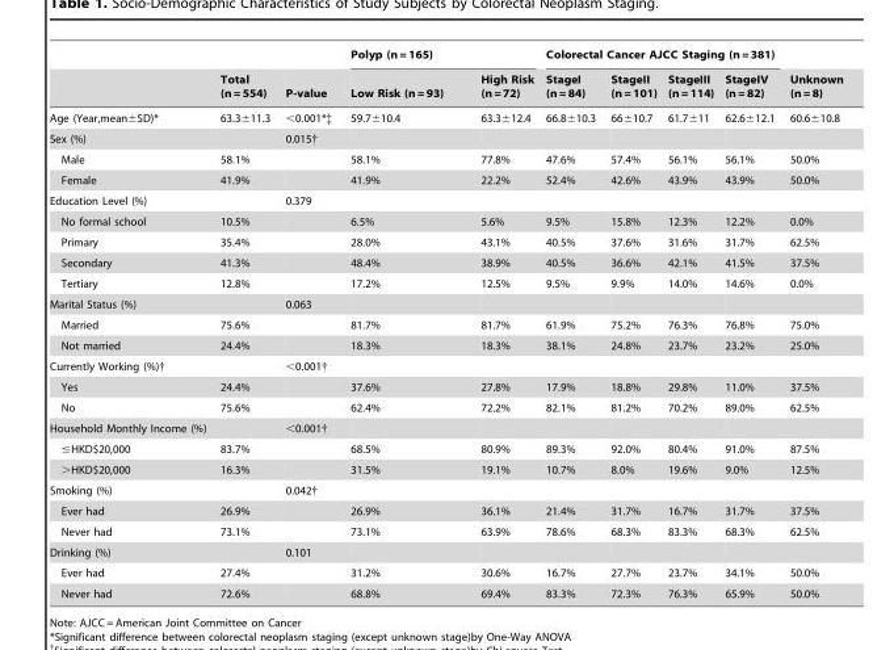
<table><thead><tr><td rowspan="2"></td><td rowspan="2">Total (n = 554)</td><td rowspan="2">P-value</td><td colspan="2">Polyp (n = 165)</td><td colspan="4">Colorectal Cancer AJCC Staging (n = 381)</td><td rowspan="2">Unknown (n = 8)</td></tr><tr><td>Low Risk (n = 93)</td><td>High Risk (n = 72)</td><td>StageI (n = 84)</td><td>StageII (n = 101)</td><td>StageIII (n = 114)</td><td>StageIV (n = 82)</td></tr></thead><tbody><tr><td>Age (Year,mean±SD)*</td><td>63.3±11.3</td><td>&lt;0.001*‡</td><td>59.7±10.4</td><td>63.3±12.4</td><td>66.8±10.3</td><td>66±10.7</td><td>61.7±11</td><td>62.6±12.1</td><td>60.6±10.8</td></tr><tr><td>Sex (%)</td><td></td><td>0.015†</td><td></td><td></td><td></td><td></td><td></td><td></td><td></td></tr><tr><td>Male</td><td>58.1%</td><td></td><td>58.1%</td><td>77.8%</td><td>47.6%</td><td>57.4%</td><td>56.1%</td><td>56.1%</td><td>50.0%</td></tr><tr><td>Female</td><td>41.9%</td><td></td><td>41.9%</td><td>22.2%</td><td>52.4%</td><td>42.6%</td><td>43.9%</td><td>43.9%</td><td>50.0%</td></tr><tr><td>Education Level (%)</td><td></td><td>0.379</td><td></td><td></td><td></td><td></td><td></td><td></td><td></td></tr><tr><td>No formal school</td><td>10.5%</td><td></td><td>6.5%</td><td>5.6%</td><td>9.5%</td><td>15.8%</td><td>12.3%</td><td>12.2%</td><td>0.0%</td></tr><tr><td>Primary</td><td>35.4%</td><td></td><td>28.0%</td><td>43.1%</td><td>40.5%</td><td>37.6%</td><td>31.6%</td><td>31.7%</td><td>62.5%</td></tr><tr><td>Secondary</td><td>41.3%</td><td></td><td>48.4%</td><td>38.9%</td><td>40.5%</td><td>36.6%</td><td>42.1%</td><td>41.5%</td><td>37.5%</td></tr><tr><td>Tertiary</td><td>12.8%</td><td></td><td>17.2%</td><td>12.5%</td><td>9.5%</td><td>9.9%</td><td>14.0%</td><td>14.6%</td><td>0.0%</td></tr><tr><td>Marital Status (%)</td><td></td><td>0.063</td><td></td><td></td><td></td><td></td><td></td><td></td><td></td></tr><tr><td>Married</td><td>75.6%</td><td></td><td>81.7%</td><td>81.7%</td><td>61.9%</td><td>75.2%</td><td>76.3%</td><td>76.8%</td><td>75.0%</td></tr><tr><td>Not married</td><td>24.4%</td><td></td><td>18.3%</td><td>18.3%</td><td>38.1%</td><td>24.8%</td><td>23.7%</td><td>23.2%</td><td>25.0%</td></tr><tr><td>Currently Working (%)†</td><td></td><td>&lt;0.001†</td><td></td><td></td><td></td><td></td><td></td><td></td><td></td></tr><tr><td>Yes</td><td>24.4%</td><td></td><td>37.6%</td><td>27.8%</td><td>17.9%</td><td>18.8%</td><td>29.8%</td><td>11.0%</td><td>37.5%</td></tr><tr><td>No</td><td>75.6%</td><td></td><td>62.4%</td><td>72.2%</td><td>82.1%</td><td>81.2%</td><td>70.2%</td><td>89.0%</td><td>62.5%</td></tr><tr><td colspan="2">Household Monthly Income (%)</td><td>&lt;0.001†</td><td></td><td></td><td></td><td></td><td></td><td></td><td></td></tr><tr><td>≤HKD$20,000</td><td>83.7%</td><td></td><td>68.5%</td><td>80.9%</td><td>89.3%</td><td>92.0%</td><td>80.4%</td><td>91.0%</td><td>87.5%</td></tr><tr><td>&gt;HKD$20,000</td><td>16.3%</td><td></td><td>31.5%</td><td>19.1%</td><td>10.7%</td><td>8.0%</td><td>19.6%</td><td>9.0%</td><td>12.5%</td></tr><tr><td>Smoking (%)</td><td></td><td>0.042†</td><td></td><td></td><td></td><td></td><td></td><td></td><td></td></tr><tr><td>Ever had</td><td>26.9%</td><td></td><td>26.9%</td><td>36.1%</td><td>21.4%</td><td>31.7%</td><td>16.7%</td><td>31.7%</td><td>37.5%</td></tr><tr><td>Never had</td><td>73.1%</td><td></td><td>73.1%</td><td>63.9%</td><td>78.6%</td><td>68.3%</td><td>83.3%</td><td>68.3%</td><td>62.5%</td></tr><tr><td>Drinking (%)</td><td></td><td>0.101</td><td></td><td></td><td></td><td></td><td></td><td></td><td></td></tr><tr><td>Ever had</td><td>27.4%</td><td></td><td>31.2%</td><td>30.6%</td><td>16.7%</td><td>27.7%</td><td>23.7%</td><td>34.1%</td><td>50.0%</td></tr><tr><td>Never had</td><td>72.6%</td><td></td><td>68.8%</td><td>69.4%</td><td>83.3%</td><td>72.3%</td><td>76.3%</td><td>65.9%</td><td>50.0%</td></tr></tbody></table>